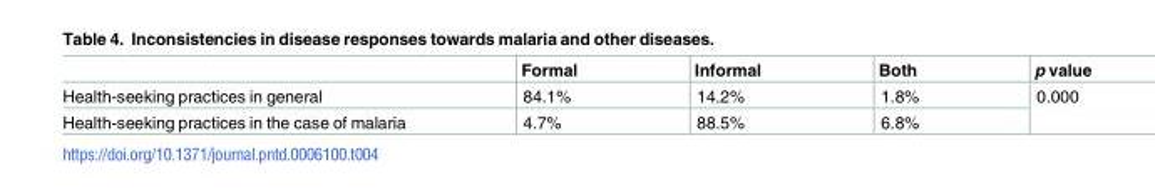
<table><thead><tr><td></td><td>Formal</td><td>Informal</td><td>Both</td><td>p value</td></tr></thead><tbody><tr><td>Health-seeking practices in general</td><td>84.1%</td><td>14.2%</td><td>1.8%</td><td rowspan="2">0.000</td></tr><tr><td>Health-seeking practices in the case of malaria</td><td>4.7%</td><td>88.5%</td><td>6.8%</td></tr></tbody></table>